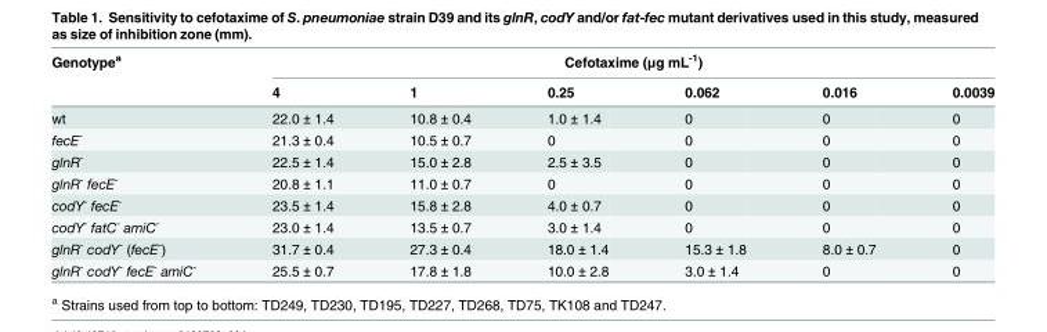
<table><thead><tr><td rowspan="2">Genotype<sup>a</sup></td><td colspan="6">Cefotaxime (μg mL<sup>-1</sup>)</td></tr><tr><td>4</td><td>1</td><td>0.25</td><td>0.062</td><td>0.016</td><td>0.0039</td></tr></thead><tbody><tr><td>wt</td><td>22.0 ± 1.4</td><td>10.8 ± 0.4</td><td>1.0 ± 1.4</td><td>0</td><td>0</td><td>0</td></tr><tr><td>fecE<sup>-</sup></td><td>21.3 ± 0.4</td><td>10.5 ± 0.7</td><td>0</td><td>0</td><td>0</td><td>0</td></tr><tr><td>glnR<sup>-</sup></td><td>22.5 ± 1.4</td><td>15.0 ± 2.8</td><td>2.5 ± 3.5</td><td>0</td><td>0</td><td>0</td></tr><tr><td>glnR<sup>-</sup> fecE<sup>-</sup></td><td>20.8 ± 1.1</td><td>11.0 ± 0.7</td><td>0</td><td>0</td><td>0</td><td>0</td></tr><tr><td>codY<sup>-</sup> fecE<sup>-</sup></td><td>23.5 ± 1.4</td><td>15.8 ± 2.8</td><td>4.0 ± 0.7</td><td>0</td><td>0</td><td>0</td></tr><tr><td>codY<sup>-</sup> fatC<sup>-</sup> amiC<sup>-</sup></td><td>23.0 ± 1.4</td><td>13.5 ± 0.7</td><td>3.0 ± 1.4</td><td>0</td><td>0</td><td>0</td></tr><tr><td>glnR<sup>-</sup> codY<sup>-</sup> (fecE<sup>-</sup>)</td><td>31.7 ± 0.4</td><td>27.3 ± 0.4</td><td>18.0 ± 1.4</td><td>15.3 ± 1.8</td><td>8.0 ± 0.7</td><td>0</td></tr><tr><td>glnR<sup>-</sup> codY<sup>-</sup> fecE<sup>-</sup> amiC<sup>-</sup></td><td>25.5 ± 0.7</td><td>17.8 ± 1.8</td><td>10.0 ± 2.8</td><td>3.0 ± 1.4</td><td>0</td><td>0</td></tr></tbody></table>